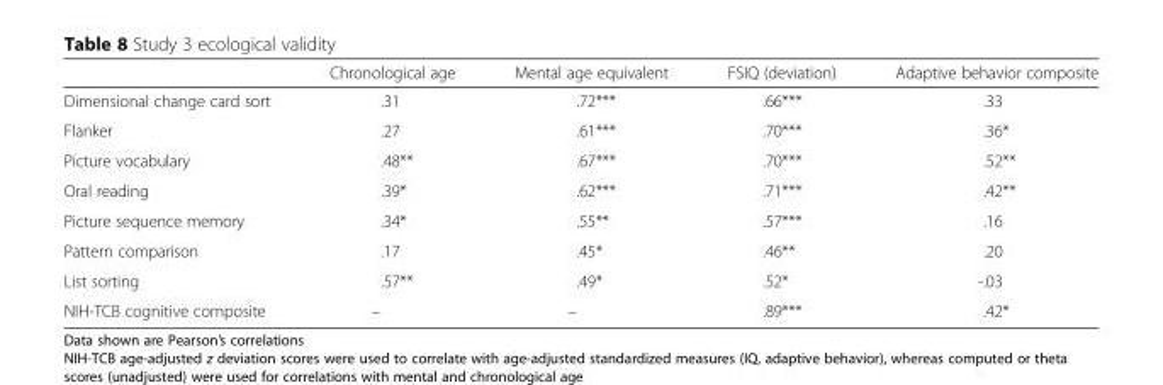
<table><thead><tr><td></td><td>Chronological age</td><td>Mental age equivalent</td><td>FSIQ (deviation)</td><td>Adaptive behavior composite</td></tr></thead><tbody><tr><td>Dimensional change card sort</td><td>.31</td><td>.72***</td><td>.66***</td><td>.33</td></tr><tr><td>Flanker</td><td>.27</td><td>.61***</td><td>.70***</td><td>.36*</td></tr><tr><td>Picture vocabulary</td><td>.48**</td><td>.67***</td><td>.70***</td><td>.52**</td></tr><tr><td>Oral reading</td><td>.39*</td><td>.62***</td><td>.71***</td><td>.42**</td></tr><tr><td>Picture sequence memory</td><td>.34*</td><td>.55**</td><td>.57***</td><td>.16</td></tr><tr><td>Pattern comparison</td><td>.17</td><td>.45*</td><td>.46**</td><td>.20</td></tr><tr><td>List sorting</td><td>.57**</td><td>.49*</td><td>.52*</td><td>-.03</td></tr><tr><td>NIH-TCB cognitive composite</td><td>–</td><td>–</td><td>.89***</td><td>.42*</td></tr></tbody></table>